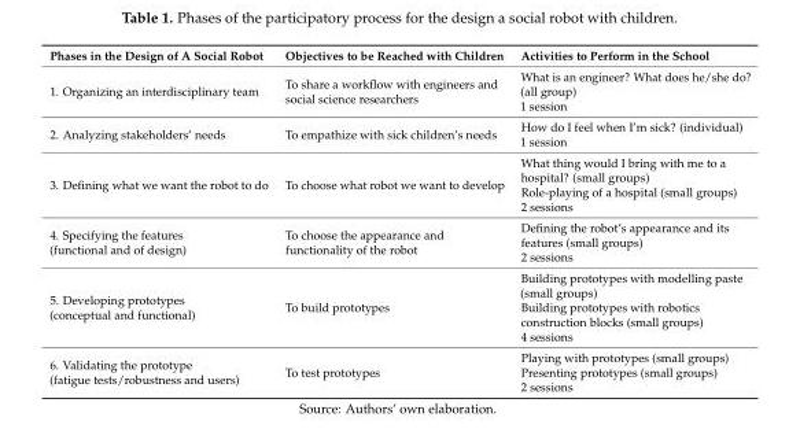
<table><thead><tr><td>Phases in the Design of A Social Robot</td><td>Objectives to be Reached with Children</td><td>Activities to Perform in the School</td></tr></thead><tbody><tr><td>1. Organizing an interdisciplinary team</td><td>To share a workflow with engineers and social science researchers</td><td>What is an engineer? What does he/she do? (all group) 1 session</td></tr><tr><td>2. Analyzing stakeholders’ needs</td><td>To empathize with sick children’s needs</td><td>How do I feel when I’m sick? (individual) 1 session</td></tr><tr><td>3. Defining what we want the robot to do</td><td>To choose what robot we want to develop</td><td>What thing would I bring with me to a hospital? (small groups) Role-playing of a hospital (small groups) 2 sessions</td></tr><tr><td>4. Specifying the features (functional and of design)</td><td>To choose the appearance and functionality of the robot</td><td>Defining the robot’s appearance and its features (small groups) 2 sessions</td></tr><tr><td>5. Developing prototypes (conceptual and functional)</td><td>To build prototypes</td><td>Building prototypes with modelling paste (small groups) Building prototypes with robotics construction blocks (small groups) 4 sessions</td></tr><tr><td>6. Validating the prototype (fatigue tests/robustness and users)</td><td>To test prototypes</td><td>Playing with prototypes (small groups) Presenting prototypes (small groups) 2 sessions</td></tr></tbody></table>